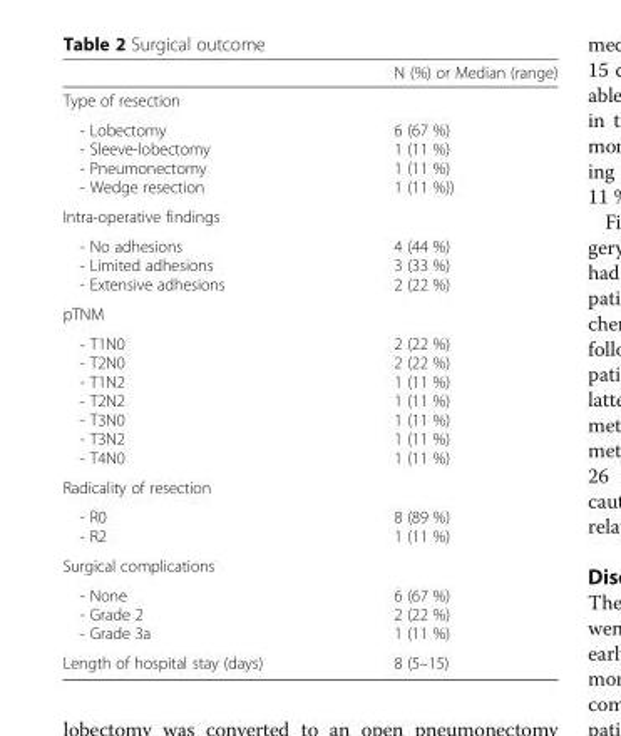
<table><thead><tr><td></td><td>N (%) or Median (range)</td></tr></thead><tbody><tr><td colspan="2">Type of resection</td></tr><tr><td>- Lobectomy - Sleeve-lobectomy - Pneumonectomy - Wedge resection</td><td>6 (67 %) 1 (11 %) 1 (11 %) 1 (11 %))</td></tr><tr><td colspan="2">Intra-operative findings</td></tr><tr><td>- No adhesions - Limited adhesions - Extensive adhesions</td><td>4 (44 %) 3 (33 %) 2 (22 %)</td></tr><tr><td colspan="2">pTNM</td></tr><tr><td>- T1N0 - T2N0 - T1N2 - T2N2 - T3N0 - T3N2 - T4N0</td><td>2 (22 %) 2 (22 %) 1 (11 %) 1 (11 %) 1 (11 %) 1 (11 %) 1 (11 %)</td></tr><tr><td colspan="2">Radicality of resection</td></tr><tr><td>- R0 - R2</td><td>8 (89 %) 1 (11 %)</td></tr><tr><td colspan="2">Surgical complications</td></tr><tr><td>- None - Grade 2 - Grade 3a</td><td>6 (67 %) 2 (22 %) 1 (11 %)</td></tr><tr><td>Length of hospital stay (days)</td><td>8 (5–15)</td></tr></tbody></table>